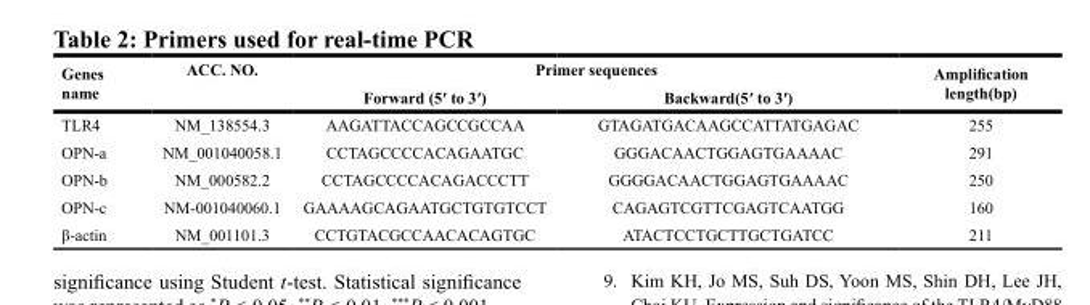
<table><thead><tr><td rowspan="2">Genes name</td><td rowspan="2">ACC. NO.</td><td colspan="2">Primer sequences</td><td rowspan="2">Amplification length(bp)</td></tr><tr><td>Forward (5′ to 3′)</td><td>Backward(5′ to 3′)</td></tr></thead><tbody><tr><td>TLR4</td><td>NM_138554.3</td><td>AAGATTACCAGCCGCCAA</td><td>GTAGATGACAAGCCATTATGAGAC</td><td>255</td></tr><tr><td>OPN-a</td><td>NM_001040058.1</td><td>CCTAGCCCCACAGAATGC</td><td>GGGACAACTGGAGTGAAAAC</td><td>291</td></tr><tr><td>OPN-b</td><td>NM_000582.2</td><td>CCTAGCCCCACAGACCCTT</td><td>GGGGACAACTGGAGTGAAAAC</td><td>250</td></tr><tr><td>OPN-c</td><td>NM-001040060.1</td><td>GAAAAGCAGAATGCTGTGTCCT</td><td>CAGAGTCGTTCGAGTCAATGG</td><td>160</td></tr><tr><td>β-actin</td><td>NM_001101.3</td><td>CCTGTACGCCAACACAGTGC</td><td>ATACTCCTGCTTGCTGATCC</td><td>211</td></tr></tbody></table>